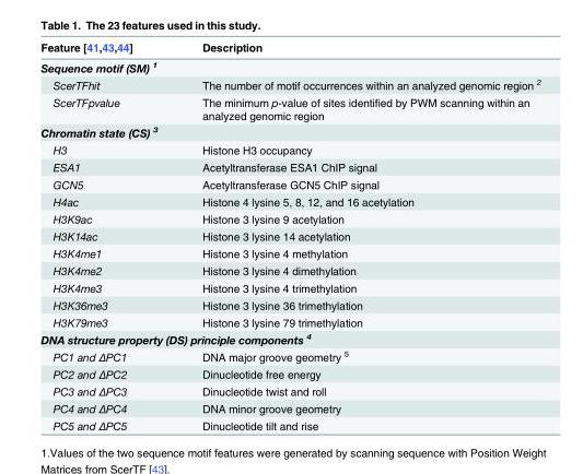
<table><thead><tr><td>Feature [41,43,44]</td><td>Description</td></tr></thead><tbody><tr><td colspan="2">Sequence motif (SM) <sup>1</sup></td></tr><tr><td>ScerTFhit</td><td>The number of motif occurrences within an analyzed genomic region <sup>2</sup></td></tr><tr><td>ScerTFpvalue</td><td>The minimum p-value of sites identified by PWM scanning within an analyzed genomic region</td></tr><tr><td colspan="2">Chromatin state (CS) <sup>3</sup></td></tr><tr><td>H3</td><td>Histone H3 occupancy</td></tr><tr><td>ESA1</td><td>Acetyltransferase ESA1 ChIP signal</td></tr><tr><td>GCN5</td><td>Acetyltransferase GCN5 ChIP signal</td></tr><tr><td>H4ac</td><td>Histone 4 lysine 5, 8, 12, and 16 acetylation</td></tr><tr><td>H3K9ac</td><td>Histone 3 lysine 9 acetylation</td></tr><tr><td>H3K14ac</td><td>Histone 3 lysine 14 acetylation</td></tr><tr><td>H3K4me1</td><td>Histone 3 lysine 4 methylation</td></tr><tr><td>H3K4me2</td><td>Histone 3 lysine 4 dimethylation</td></tr><tr><td>H3K4me3</td><td>Histone 3 lysine 4 trimethylation</td></tr><tr><td>H3K36me3</td><td>Histone 3 lysine 36 trimethylation</td></tr><tr><td>H3K79me3</td><td>Histone 3 lysine 79 trimethylation</td></tr><tr><td colspan="2">DNA structure property (DS) principle components <sup>4</sup></td></tr><tr><td>PC1 and ΔPC1</td><td>DNA major groove geometry <sup>5</sup></td></tr><tr><td>PC2 and ΔPC2</td><td>Dinucleotide free energy</td></tr><tr><td>PC3 and ΔPC3</td><td>Dinucleotide twist and roll</td></tr><tr><td>PC4 and ΔPC4</td><td>DNA minor groove geometry</td></tr><tr><td>PC5 and ΔPC5</td><td>Dinucleotide tilt and rise</td></tr></tbody></table>